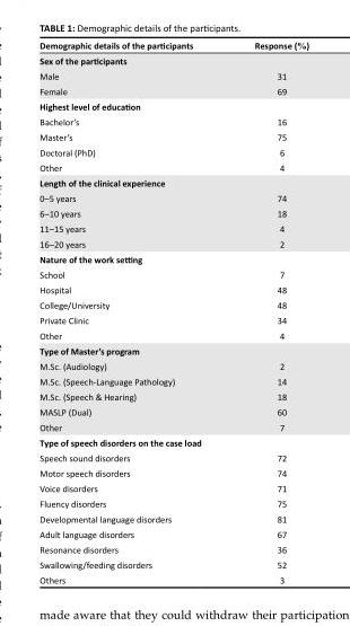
<table><thead><tr><td>Demographic details of the participants</td><td>Response (%)</td></tr></thead><tbody><tr><td colspan="2">Sex of the participants</td></tr><tr><td>Male</td><td>31</td></tr><tr><td>Female</td><td>69</td></tr><tr><td colspan="2">Highest level of education</td></tr><tr><td>Bachelor’s</td><td>16</td></tr><tr><td>Master’s</td><td>75</td></tr><tr><td>Doctoral (PhD)</td><td>6</td></tr><tr><td>Other</td><td>4</td></tr><tr><td colspan="2">Length of the clinical experience</td></tr><tr><td>0–5 years</td><td>74</td></tr><tr><td>6–10 years</td><td>18</td></tr><tr><td>11–15 years</td><td>4</td></tr><tr><td>16–20 years</td><td>2</td></tr><tr><td colspan="2">Nature of the work setting</td></tr><tr><td>School</td><td>7</td></tr><tr><td>Hospital</td><td>48</td></tr><tr><td>College/University</td><td>48</td></tr><tr><td>Private Clinic</td><td>34</td></tr><tr><td>Other</td><td>4</td></tr><tr><td colspan="2">Type of Master’s program</td></tr><tr><td>M.Sc. (Audiology)</td><td>2</td></tr><tr><td>M.Sc. (Speech-Language Pathology)</td><td>14</td></tr><tr><td>M.Sc. (Speech &amp; Hearing)</td><td>18</td></tr><tr><td>MASLP (Dual)</td><td>60</td></tr><tr><td>Other</td><td>7</td></tr><tr><td colspan="2">Type of speech disorders on the case load</td></tr><tr><td>Speech sound disorders</td><td>72</td></tr><tr><td>Motor speech disorders</td><td>74</td></tr><tr><td>Voice disorders</td><td>71</td></tr><tr><td>Fluency disorders</td><td>75</td></tr><tr><td>Developmental language disorders</td><td>81</td></tr><tr><td>Adult language disorders</td><td>67</td></tr><tr><td>Resonance disorders</td><td>36</td></tr><tr><td>Swallowing/feeding disorders</td><td>52</td></tr><tr><td>Others</td><td>3</td></tr></tbody></table>